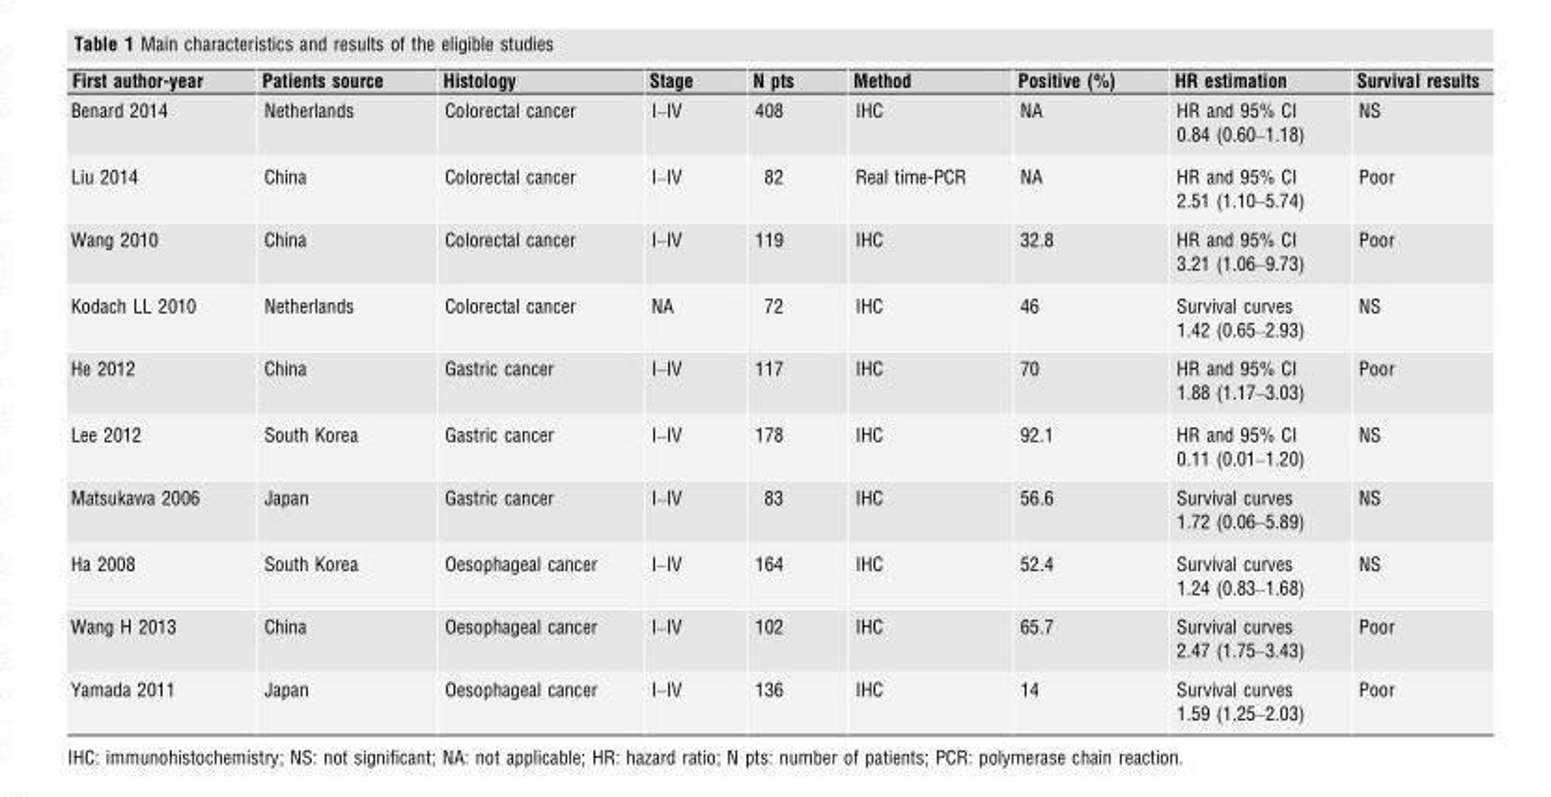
<table><thead><tr><td>First author-year</td><td>Patients source</td><td>Histology</td><td>Stage</td><td>N pts</td><td>Method</td><td>Positive (%)</td><td>HR estimation</td><td>Survival results</td></tr></thead><tbody><tr><td>Benard 2014</td><td>Netherlands</td><td>Colorectal cancer</td><td>I–IV</td><td>408</td><td>IHC</td><td>NA</td><td>HR and 95% CI 0.84 (0.60–1.18)</td><td>NS</td></tr><tr><td>Liu 2014</td><td>China</td><td>Colorectal cancer</td><td>I–IV</td><td>82</td><td>Real time-PCR</td><td>NA</td><td>HR and 95% CI 2.51 (1.10–5.74)</td><td>Poor</td></tr><tr><td>Wang 2010</td><td>China</td><td>Colorectal cancer</td><td>I–IV</td><td>119</td><td>IHC</td><td>32.8</td><td>HR and 95% CI 3.21 (1.06–9.73)</td><td>Poor</td></tr><tr><td>Kodach LL 2010</td><td>Netherlands</td><td>Colorectal cancer</td><td>NA</td><td>72</td><td>IHC</td><td>46</td><td>Survival curves 1.42 (0.65–2.93)</td><td>NS</td></tr><tr><td>He 2012</td><td>China</td><td>Gastric cancer</td><td>I–IV</td><td>117</td><td>IHC</td><td>70</td><td>HR and 95% CI 1.88 (1.17–3.03)</td><td>Poor</td></tr><tr><td>Lee 2012</td><td>South Korea</td><td>Gastric cancer</td><td>I–IV</td><td>178</td><td>IHC</td><td>92.1</td><td>HR and 95% CI 0.11 (0.01–1.20)</td><td>NS</td></tr><tr><td>Matsukawa 2006</td><td>Japan</td><td>Gastric cancer</td><td>I–IV</td><td>83</td><td>IHC</td><td>56.6</td><td>Survival curves 1.72 (0.06–5.89)</td><td>NS</td></tr><tr><td>Ha 2008</td><td>South Korea</td><td>Oesophageal cancer</td><td>I–IV</td><td>164</td><td>IHC</td><td>52.4</td><td>Survival curves 1.24 (0.83–1.68)</td><td>NS</td></tr><tr><td>Wang H 2013</td><td>China</td><td>Oesophageal cancer</td><td>I–IV</td><td>102</td><td>IHC</td><td>65.7</td><td>Survival curves 2.47 (1.75–3.43)</td><td>Poor</td></tr><tr><td>Yamada 2011</td><td>Japan</td><td>Oesophageal cancer</td><td>I–IV</td><td>136</td><td>IHC</td><td>14</td><td>Survival curves 1.59 (1.25–2.03)</td><td>Poor</td></tr></tbody></table>